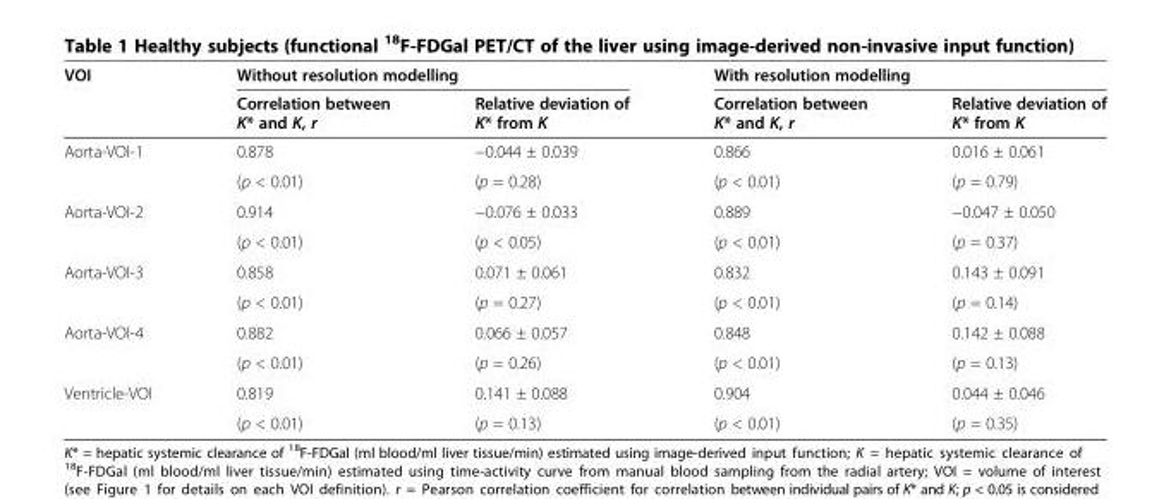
<table><thead><tr><td rowspan="2">VOI</td><td colspan="2">Without resolution modelling</td><td colspan="2">With resolution modelling</td></tr><tr><td>Correlation between K* and K, r</td><td>Relative deviation of K* from K</td><td>Correlation between K* and K, r</td><td>Relative deviation of K* from K</td></tr></thead><tbody><tr><td rowspan="2">Aorta-VOI-1</td><td>0.878</td><td>−0.044 ± 0.039</td><td>0.866</td><td>0.016 ± 0.061</td></tr><tr><td>(p &lt; 0.01)</td><td>(p = 0.28)</td><td>(p &lt; 0.01)</td><td>(p = 0.79)</td></tr><tr><td rowspan="2">Aorta-VOI-2</td><td>0.914</td><td>−0.076 ± 0.033</td><td>0.889</td><td>−0.047 ± 0.050</td></tr><tr><td>(p &lt; 0.01)</td><td>(p &lt; 0.05)</td><td>(p &lt; 0.01)</td><td>(p = 0.37)</td></tr><tr><td rowspan="2">Aorta-VOI-3</td><td>0.858</td><td>0.071 ± 0.061</td><td>0.832</td><td>0.143 ± 0.091</td></tr><tr><td>(p &lt; 0.01)</td><td>(p = 0.27)</td><td>(p &lt; 0.01)</td><td>(p = 0.14)</td></tr><tr><td rowspan="2">Aorta-VOI-4</td><td>0.882</td><td>0.066 ± 0.057</td><td>0.848</td><td>0.142 ± 0.088</td></tr><tr><td>(p &lt; 0.01)</td><td>(p = 0.26)</td><td>(p &lt; 0.01)</td><td>(p = 0.13)</td></tr><tr><td rowspan="2">Ventricle-VOI</td><td>0.819</td><td>0.141 ± 0.088</td><td>0.904</td><td>0.044 ± 0.046</td></tr><tr><td>(p &lt; 0.01)</td><td>(p = 0.13)</td><td>(p &lt; 0.01)</td><td>(p = 0.35)</td></tr></tbody></table>